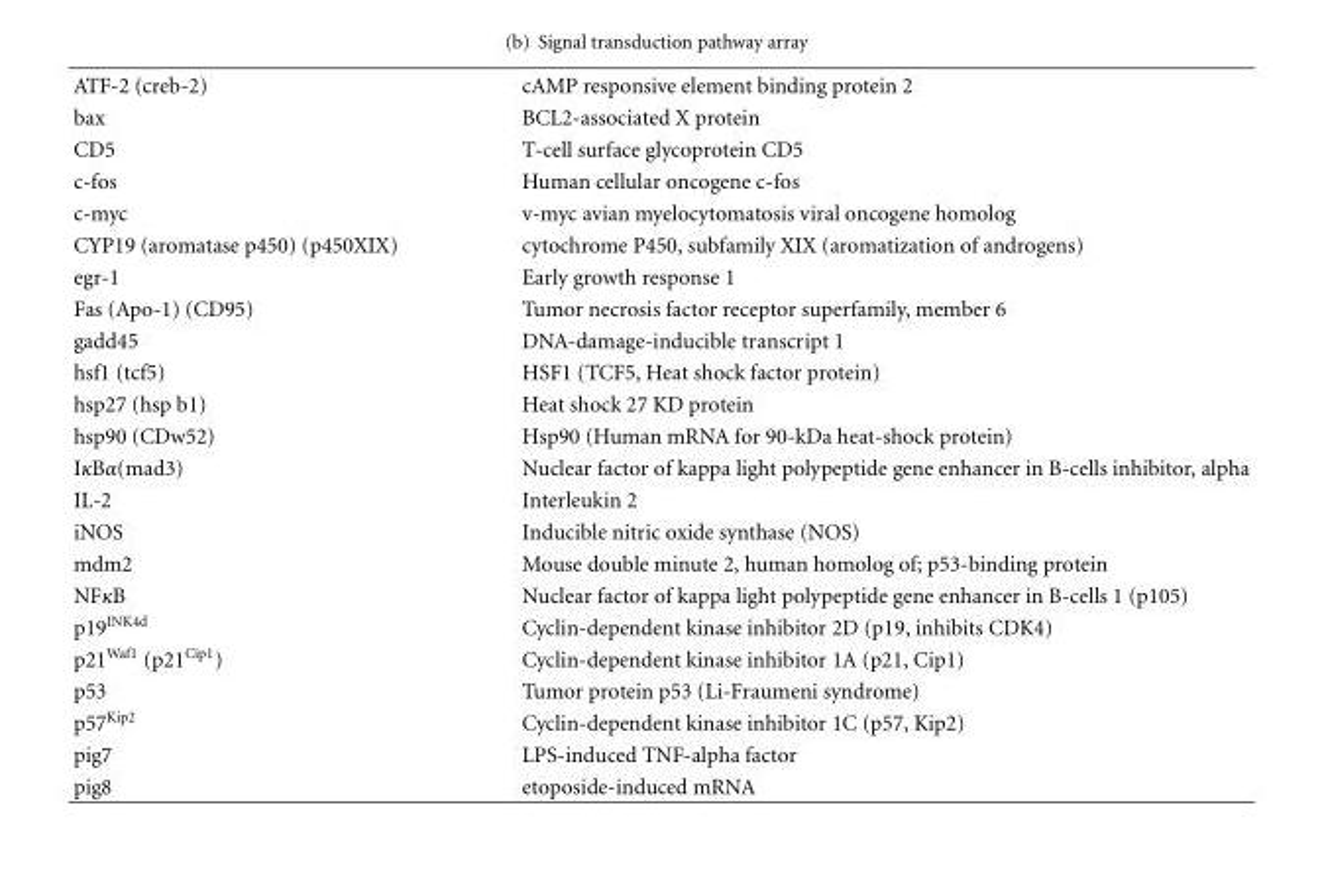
<table><tbody><tr><td>ATF-2 (creb-2)</td><td>cAMP responsive element binding protein 2</td></tr><tr><td>bax</td><td>BCL2-associated X protein</td></tr><tr><td>CD5</td><td>T-cell surface glycoprotein CD5</td></tr><tr><td>c-fos</td><td>Human cellular oncogene c-fos</td></tr><tr><td>c-myc</td><td>v-myc avian myelocytomatosis viral oncogene homolog</td></tr><tr><td>CYP19 (aromatase p450) (p450XIX)</td><td>cytochrome P450, subfamily XIX (aromatization of androgens)</td></tr><tr><td>egr-1</td><td>Early growth response 1</td></tr><tr><td>Fas (Apo-1) (CD95)</td><td>Tumor necrosis factor receptor superfamily, member 6</td></tr><tr><td>gadd45</td><td>DNA-damage-inducible transcript 1</td></tr><tr><td>hsf1 (tcf5)</td><td>HSF1 (TCF5, Heat shock factor protein)</td></tr><tr><td>hsp27 (hsp b1)</td><td>Heat shock 27 KD protein</td></tr><tr><td>hsp90 (CDw52)</td><td>Hsp90 (Human mRNA for 90-kDa heat-shock protein)</td></tr><tr><td>IκBα(mad3)</td><td>Nuclear factor of kappa light polypeptide gene enhancer in B-cells inhibitor, alpha</td></tr><tr><td>IL-2</td><td>Interleukin 2</td></tr><tr><td>iNOS</td><td>Inducible nitric oxide synthase (NOS)</td></tr><tr><td>mdm2</td><td>Mouse double minute 2, human homolog of; p53-binding protein</td></tr><tr><td>NFκB</td><td>Nuclear factor of kappa light polypeptide gene enhancer in B-cells 1 (p105)</td></tr><tr><td>p19<sup>INK4d</sup></td><td>Cyclin-dependent kinase inhibitor 2D (p19, inhibits CDK4)</td></tr><tr><td>p21<sup>Waf1</sup> (p21<sup>Cip1</sup>)</td><td>Cyclin-dependent kinase inhibitor 1A (p21, Cip1)</td></tr><tr><td>p53</td><td>Tumor protein p53 (Li-Fraumeni syndrome)</td></tr><tr><td>p57<sup>Kip2</sup></td><td>Cyclin-dependent kinase inhibitor 1C (p57, Kip2)</td></tr><tr><td>pig7</td><td>LPS-induced TNF-alpha factor</td></tr><tr><td>pig8</td><td>etoposide-induced mRNA</td></tr></tbody></table>